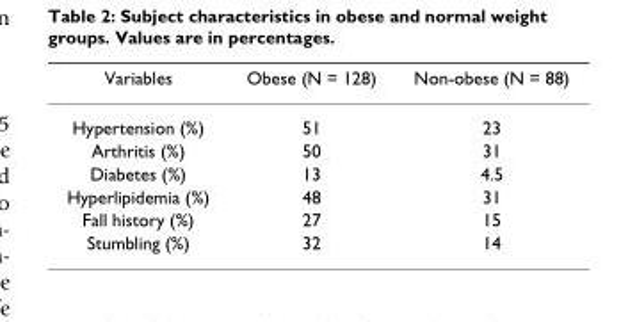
<table><thead><tr><td>Variables</td><td>Obese (N = 128)</td><td>Non-obese (N = 88)</td></tr></thead><tbody><tr><td>Hypertension (%)</td><td>51</td><td>23</td></tr><tr><td>Arthritis (%)</td><td>50</td><td>31</td></tr><tr><td>Diabetes (%)</td><td>13</td><td>4.5</td></tr><tr><td>Hyperlipidemia (%)</td><td>48</td><td>31</td></tr><tr><td>Fall history (%)</td><td>27</td><td>15</td></tr><tr><td>Stumbling (%)</td><td>32</td><td>14</td></tr></tbody></table>